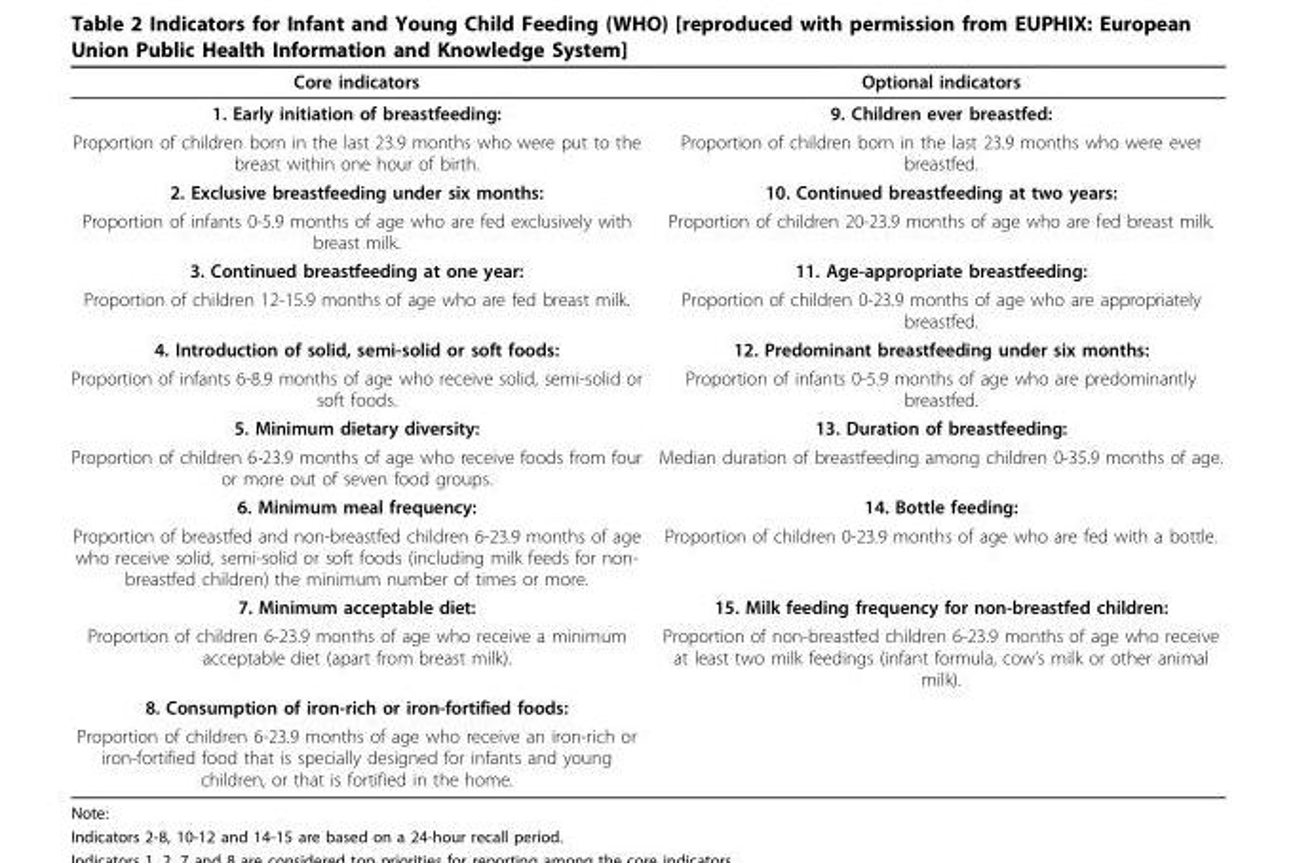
<table><thead><tr><td>Core indicators</td><td>Optional indicators</td></tr></thead><tbody><tr><td>1. Early initiation of breastfeeding:</td><td>9. Children ever breastfed:</td></tr><tr><td>Proportion of children born in the last 23.9 months who were put to the breast within one hour of birth.</td><td>Proportion of children born in the last 23.9 months who were ever breastfed.</td></tr><tr><td>2. Exclusive breastfeeding under six months:</td><td>10. Continued breastfeeding at two years:</td></tr><tr><td>Proportion of infants 0-5.9 months of age who are fed exclusively with breast milk.</td><td>Proportion of children 20-23.9 months of age who are fed breast milk.</td></tr><tr><td>3. Continued breastfeeding at one year:</td><td>11. Age-appropriate breastfeeding:</td></tr><tr><td>Proportion of children 12-15.9 months of age who are fed breast milk.</td><td>Proportion of children 0-23.9 months of age who are appropriately breastfed.</td></tr><tr><td>4. Introduction of solid, semi-solid or soft foods:</td><td>12. Predominant breastfeeding under six months:</td></tr><tr><td>Proportion of infants 6-8.9 months of age who receive solid, semi-solid or soft foods.</td><td>Proportion of infants 0-5.9 months of age who are predominantly breastfed.</td></tr><tr><td>5. Minimum dietary diversity:</td><td>13. Duration of breastfeeding:</td></tr><tr><td>Proportion of children 6-23.9 months of age who receive foods from four or more out of seven food groups.</td><td>Median duration of breastfeeding among children 0-35.9 months of age.</td></tr><tr><td>6. Minimum meal frequency:</td><td>14. Bottle feeding:</td></tr><tr><td>Proportion of breastfed and non-breastfed children 6-23.9 months of age who receive solid, semi-solid or soft foods (including milk feeds for non- breastfed children) the minimum number of times or more.</td><td>Proportion of children 0-23.9 months of age who are fed with a bottle.</td></tr><tr><td>7. Minimum acceptable diet:</td><td>15. Milk feeding frequency for non-breastfed children:</td></tr><tr><td>Proportion of children 6-23.9 months of age who receive a minimum acceptable diet (apart from breast milk).</td><td>Proportion of non-breastfed children 6-23.9 months of age who receive at least two milk feedings (infant formula, cow’s milk or other animal milk).</td></tr><tr><td colspan="2">8. Consumption of iron-rich or iron-fortified foods:</td></tr><tr><td>Proportion of children 6-23.9 months of age who receive an iron-rich or iron-fortified food that is specially designed for infants and young children, or that is fortified in the home.</td><td></td></tr></tbody></table>